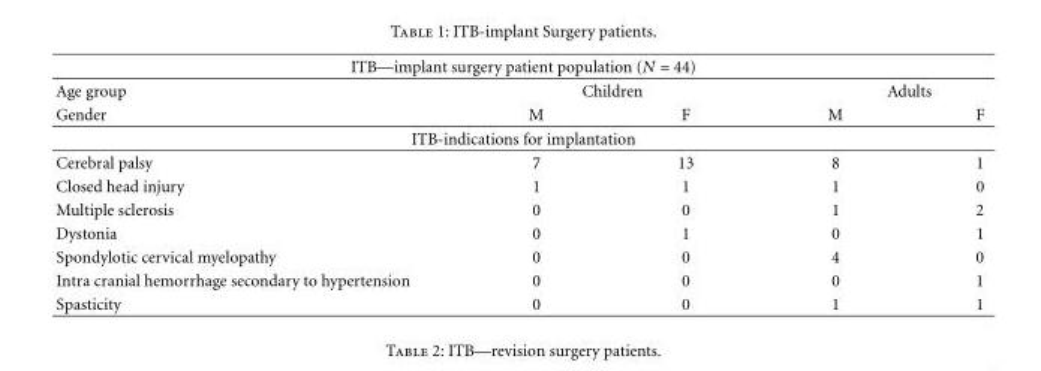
<table><thead><tr><td colspan="5">ITB—implant surgery patient population (N = 44)</td></tr><tr><td rowspan="2">Age group Gender</td><td colspan="2">Children</td><td colspan="2">Adults</td></tr><tr><td>M</td><td>F</td><td>M</td><td>F</td></tr></thead><tbody><tr><td colspan="5">ITB-indications for implantation</td></tr><tr><td>Cerebral palsy</td><td>7</td><td>13</td><td>8</td><td>1</td></tr><tr><td>Closed head injury</td><td>1</td><td>1</td><td>1</td><td>0</td></tr><tr><td>Multiple sclerosis</td><td>0</td><td>0</td><td>1</td><td>2</td></tr><tr><td>Dystonia</td><td>0</td><td>1</td><td>0</td><td>1</td></tr><tr><td>Spondylotic cervical myelopathy</td><td>0</td><td>0</td><td>4</td><td>0</td></tr><tr><td>Intra cranial hemorrhage secondary to hypertension</td><td>0</td><td>0</td><td>0</td><td>1</td></tr><tr><td>Spasticity</td><td>0</td><td>0</td><td>1</td><td>1</td></tr></tbody></table>